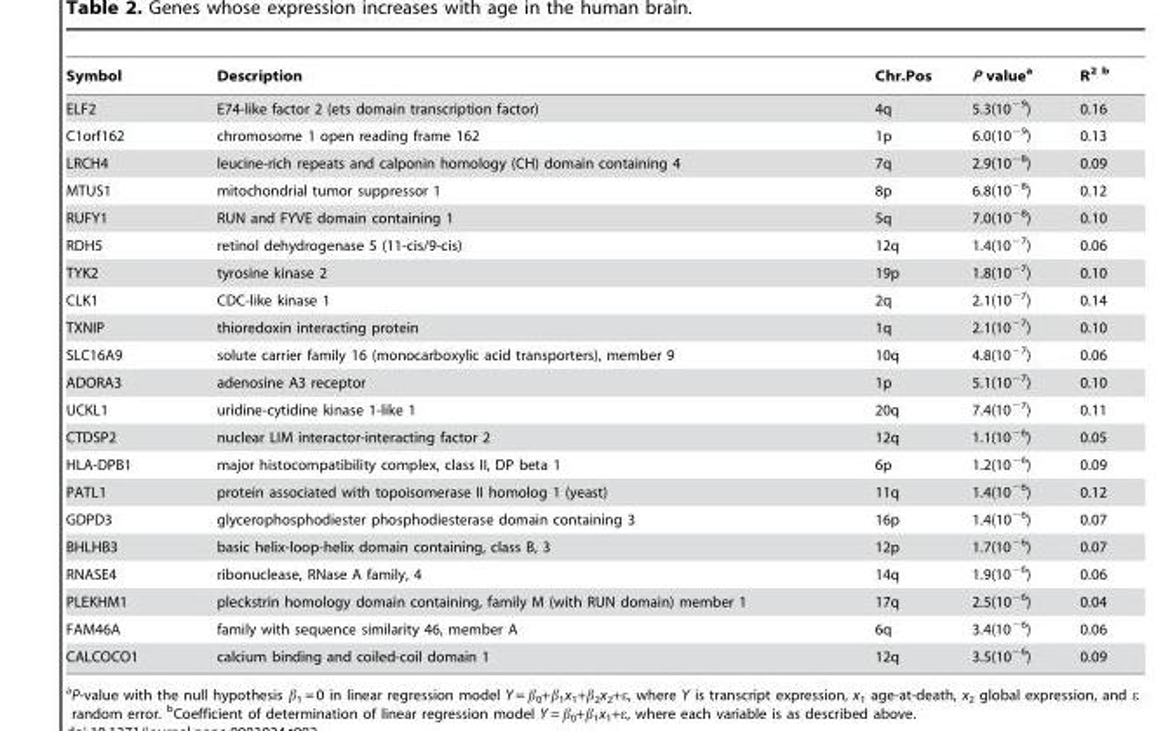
<table><thead><tr><td>Symbol</td><td>Description</td><td>Chr.Pos</td><td>P value<sup>a</sup></td><td>R<sup>2 b</sup></td></tr></thead><tbody><tr><td>ELF2</td><td>E74-like factor 2 (ets domain transcription factor)</td><td>4q</td><td>5.3(10<sup>−9</sup>)</td><td>0.16</td></tr><tr><td>C1orf162</td><td>chromosome 1 open reading frame 162</td><td>1p</td><td>6.0(10<sup>−9</sup>)</td><td>0.13</td></tr><tr><td>LRCH4</td><td>leucine-rich repeats and calponin homology (CH) domain containing 4</td><td>7q</td><td>2.9(10<sup>−8</sup>)</td><td>0.09</td></tr><tr><td>MTUS1</td><td>mitochondrial tumor suppressor 1</td><td>8p</td><td>6.8(10<sup>−8</sup>)</td><td>0.12</td></tr><tr><td>RUFY1</td><td>RUN and FYVE domain containing 1</td><td>5q</td><td>7.0(10<sup>−8</sup>)</td><td>0.10</td></tr><tr><td>RDH5</td><td>retinol dehydrogenase 5 (11-cis/9-cis)</td><td>12q</td><td>1.4(10<sup>−7</sup>)</td><td>0.06</td></tr><tr><td>TYK2</td><td>tyrosine kinase 2</td><td>19p</td><td>1.8(10<sup>−7</sup>)</td><td>0.10</td></tr><tr><td>CLK1</td><td>CDC-like kinase 1</td><td>2q</td><td>2.1(10<sup>−7</sup>)</td><td>0.14</td></tr><tr><td>TXNIP</td><td>thioredoxin interacting protein</td><td>1q</td><td>2.1(10<sup>−7</sup>)</td><td>0.10</td></tr><tr><td>SLC16A9</td><td>solute carrier family 16 (monocarboxylic acid transporters), member 9</td><td>10q</td><td>4.8(10<sup>−7</sup>)</td><td>0.06</td></tr><tr><td>ADORA3</td><td>adenosine A3 receptor</td><td>1p</td><td>5.1(10<sup>−7</sup>)</td><td>0.10</td></tr><tr><td>UCKL1</td><td>uridine-cytidine kinase 1-like 1</td><td>20q</td><td>7.4(10<sup>−7</sup>)</td><td>0.11</td></tr><tr><td>CTDSP2</td><td>nuclear LIM interactor-interacting factor 2</td><td>12q</td><td>1.1(10<sup>−6</sup>)</td><td>0.05</td></tr><tr><td>HLA-DPB1</td><td>major histocompatibility complex, class II, DP beta 1</td><td>6p</td><td>1.2(10<sup>−6</sup>)</td><td>0.09</td></tr><tr><td>PATL1</td><td>protein associated with topoisomerase II homolog 1 (yeast)</td><td>11q</td><td>1.4(10<sup>−6</sup>)</td><td>0.12</td></tr><tr><td>GDPD3</td><td>glycerophosphodiester phosphodiesterase domain containing 3</td><td>16p</td><td>1.4(10<sup>−6</sup>)</td><td>0.07</td></tr><tr><td>BHLHB3</td><td>basic helix-loop-helix domain containing, class B, 3</td><td>12p</td><td>1.7(10<sup>−6</sup>)</td><td>0.07</td></tr><tr><td>RNASE4</td><td>ribonuclease, RNase A family, 4</td><td>14q</td><td>1.9(10<sup>−6</sup>)</td><td>0.06</td></tr><tr><td>PLEKHM1</td><td>pleckstrin homology domain containing, family M (with RUN domain) member 1</td><td>17q</td><td>2.5(10<sup>−6</sup>)</td><td>0.04</td></tr><tr><td>FAM46A</td><td>family with sequence similarity 46, member A</td><td>6q</td><td>3.4(10<sup>−6</sup>)</td><td>0.06</td></tr><tr><td>CALCOCO1</td><td>calcium binding and coiled-coil domain 1</td><td>12q</td><td>3.5(10<sup>−6</sup>)</td><td>0.09</td></tr></tbody></table>